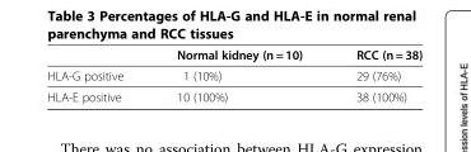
<table><thead><tr><td></td><td>Normal kidney (n = 10)</td><td>RCC (n = 38)</td></tr></thead><tbody><tr><td>HLA-G positive</td><td>1 (10%)</td><td>29 (76%)</td></tr><tr><td>HLA-E positive</td><td>10 (100%)</td><td>38 (100%)</td></tr></tbody></table>